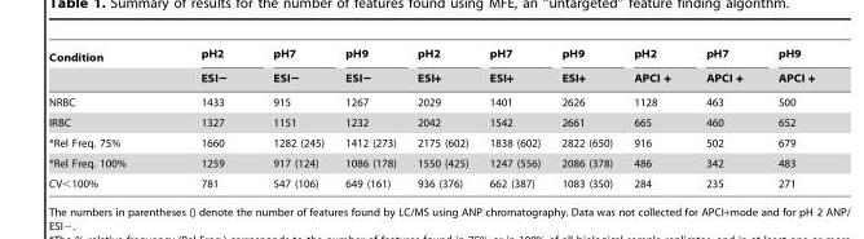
<table><thead><tr><td rowspan="2">Condition</td><td rowspan="2">pH2 ESI−</td><td rowspan="2">pH7 ESI−</td><td rowspan="2">pH9 ESI−</td><td rowspan="2">pH2 ESI+</td><td rowspan="2">pH7 ESI+</td><td rowspan="2">pH9 ESI+</td><td rowspan="2">pH2 APCI +</td><td rowspan="2">pH7 APCI +</td><td rowspan="2">pH9 APCI +</td></tr><tr></tr></thead><tbody><tr><td>NRBC</td><td>1433</td><td>915</td><td>1267</td><td>2029</td><td>1401</td><td>2626</td><td>1128</td><td>463</td><td>500</td></tr><tr><td>IRBC</td><td>1327</td><td>1151</td><td>1232</td><td>2042</td><td>1542</td><td>2661</td><td>665</td><td>460</td><td>652</td></tr><tr><td>*Rel Freq. 75%</td><td>1660</td><td>1282 (245)</td><td>1412 (273)</td><td>2175 (602)</td><td>1838 (602)</td><td>2822 (650)</td><td>916</td><td>502</td><td>679</td></tr><tr><td>*Rel Freq. 100%</td><td>1259</td><td>917 (124)</td><td>1086 (178)</td><td>1550 (425)</td><td>1247 (556)</td><td>2086 (378)</td><td>486</td><td>342</td><td>483</td></tr><tr><td>CV&lt;100%</td><td>781</td><td>547 (106)</td><td>649 (161)</td><td>936 (376)</td><td>662 (387)</td><td>1083 (350)</td><td>284</td><td>235</td><td>271</td></tr></tbody></table>